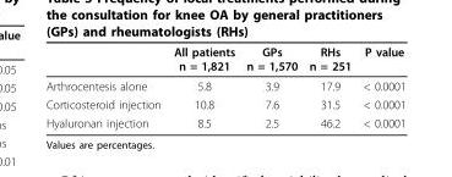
<table><thead><tr><td></td><td>All patients n = 1,821</td><td>GPs n = 1,570</td><td>RHs n = 251</td><td>P value</td></tr></thead><tbody><tr><td>Arthrocentesis alone</td><td>5.8</td><td>3.9</td><td>17.9</td><td>&lt; 0.0001</td></tr><tr><td>Corticosteroid injection</td><td>10.8</td><td>7.6</td><td>31.5</td><td>&lt; 0.0001</td></tr><tr><td>Hyaluronan injection</td><td>8.5</td><td>2.5</td><td>46.2</td><td>&lt; 0.0001</td></tr></tbody></table>